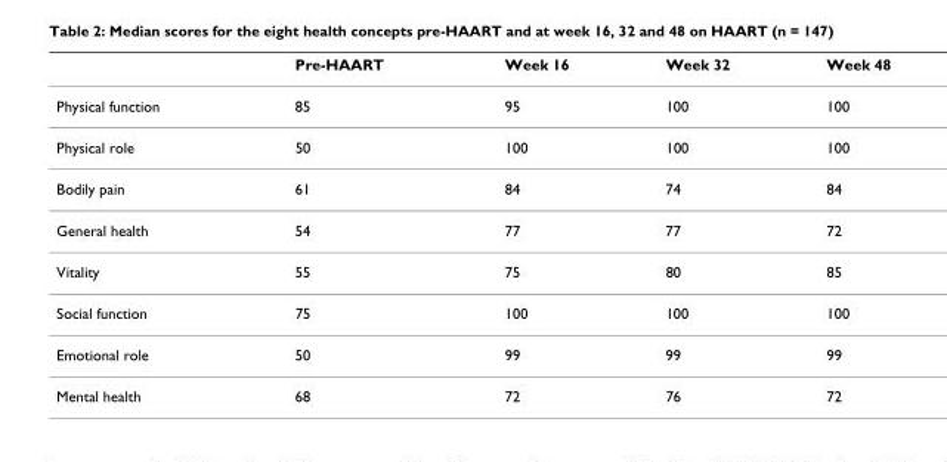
<table><thead><tr><td></td><td>Pre-HAART</td><td>Week 16</td><td>Week 32</td><td>Week 48</td></tr></thead><tbody><tr><td>Physical function</td><td>85</td><td>95</td><td>100</td><td>100</td></tr><tr><td>Physical role</td><td>50</td><td>100</td><td>100</td><td>100</td></tr><tr><td>Bodily pain</td><td>61</td><td>84</td><td>74</td><td>84</td></tr><tr><td>General health</td><td>54</td><td>77</td><td>77</td><td>72</td></tr><tr><td>Vitality</td><td>55</td><td>75</td><td>80</td><td>85</td></tr><tr><td>Social function</td><td>75</td><td>100</td><td>100</td><td>100</td></tr><tr><td>Emotional role</td><td>50</td><td>99</td><td>99</td><td>99</td></tr><tr><td>Mental health</td><td>68</td><td>72</td><td>76</td><td>72</td></tr></tbody></table>